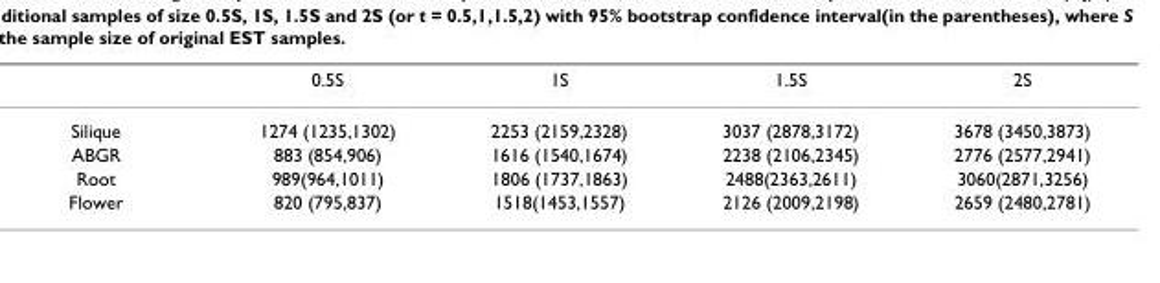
<table><thead><tr><td></td><td>0.5S</td><td>1S</td><td>1.5S</td><td>2S</td></tr></thead><tbody><tr><td>Silique</td><td>1274 (1235,1302)</td><td>2253 (2159,2328)</td><td>3037 (2878,3172)</td><td>3678 (3450,3873)</td></tr><tr><td>ABGR</td><td>883 (854,906)</td><td>1616 (1540,1674)</td><td>2238 (2106,2345)</td><td>2776 (2577,2941)</td></tr><tr><td>Root</td><td>989(964,1011)</td><td>1806 (1737,1863)</td><td>2488(2363,2611)</td><td>3060(2871,3256)</td></tr><tr><td>Flower</td><td>820 (795,837)</td><td>1518(1453,1557)</td><td>2126 (2009,2198)</td><td>2659 (2480,2781)</td></tr></tbody></table>